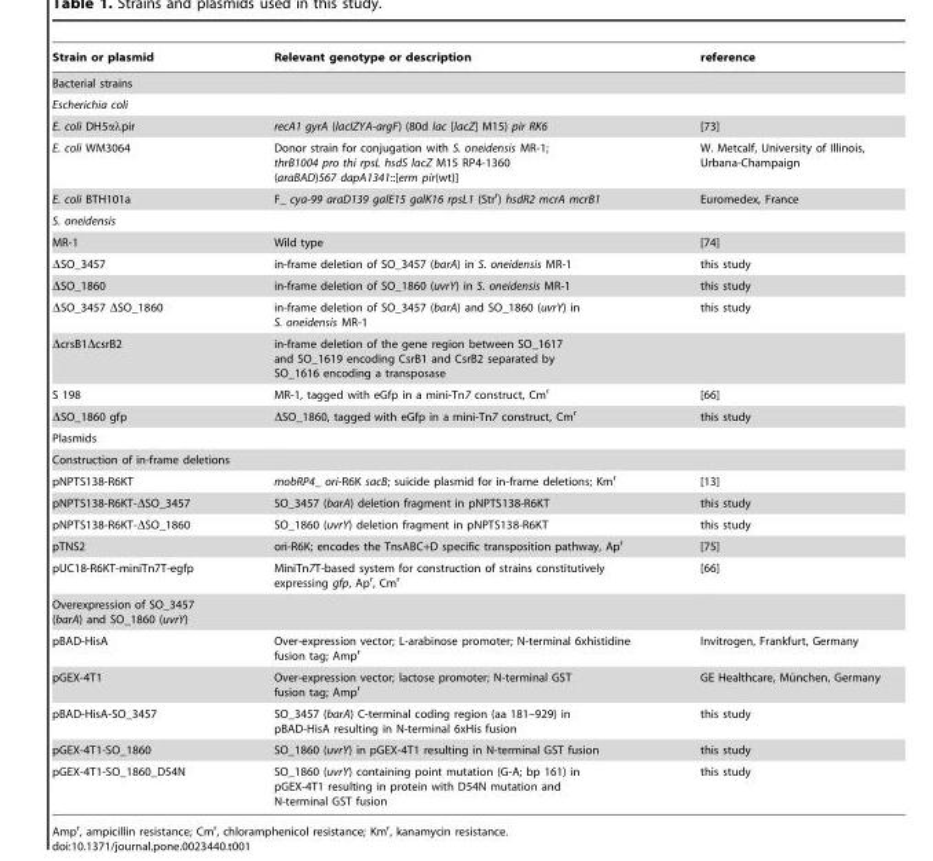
<table><thead><tr><td>Strain or plasmid</td><td>Relevant genotype or description</td><td>reference</td></tr></thead><tbody><tr><td colspan="3">Bacterial strains</td></tr><tr><td colspan="3">Escherichia coli</td></tr><tr><td>E. coli DH5αλpir</td><td>recA1 gyrA (lacIZYA-argF) (80d lac [lacZ] M15) pir RK6</td><td>[73]</td></tr><tr><td>E. coli WM3064</td><td>Donor strain for conjugation with S. oneidensis MR-1; thrB1004 pro thi rpsL hsdS lacZ M15 RP4-1360 (araBAD)567 dapA1341::[erm pir(wt)]</td><td>W. Metcalf, University of Illinois, Urbana-Champaign</td></tr><tr><td>E. coli BTH101a</td><td>F_ cya-99 araD139 galE15 galK16 rpsL1 (Str<sup>r</sup>) hsdR2 mcrA mcrB1</td><td>Euromedex, France</td></tr><tr><td colspan="3">S. oneidensis</td></tr><tr><td>MR-1</td><td>Wild type</td><td>[74]</td></tr><tr><td>ΔSO_3457</td><td>in-frame deletion of SO_3457 (barA) in S. oneidensis MR-1</td><td>this study</td></tr><tr><td>ΔSO_1860</td><td>in-frame deletion of SO_1860 (uvrY) in S. oneidensis MR-1</td><td>this study</td></tr><tr><td>ΔSO_3457 ΔSO_1860</td><td>in-frame deletion of SO_3457 (barA) and SO_1860 (uvrY) in S. oneidensis MR-1</td><td>this study</td></tr><tr><td>ΔcrsB1ΔcsrB2</td><td>in-frame deletion of the gene region between SO_1617 and SO_1619 encoding CsrB1 and CsrB2 separated by SO_1616 encoding a transposase</td><td></td></tr><tr><td>S 198</td><td>MR-1, tagged with eGfp in a mini-Tn7 construct, Cm<sup>r</sup></td><td>[66]</td></tr><tr><td>ΔSO_1860 gfp</td><td>ΔSO_1860, tagged with eGfp in a mini-Tn7 construct, Cm<sup>r</sup></td><td>this study</td></tr><tr><td colspan="3">Plasmids</td></tr><tr><td colspan="3">Construction of in-frame deletions</td></tr><tr><td>pNPTS138-R6KT</td><td>mobRP4_ ori-R6K sacB; suicide plasmid for in-frame deletions; Km<sup>r</sup></td><td>[13]</td></tr><tr><td>pNPTS138-R6KT-ΔSO_3457</td><td>SO_3457 (barA) deletion fragment in pNPTS138-R6KT</td><td>this study</td></tr><tr><td>pNPTS138-R6KT-ΔSO_1860</td><td>SO_1860 (uvrY) deletion fragment in pNPTS138-R6KT</td><td>this study</td></tr><tr><td>pTNS2</td><td>ori-R6K; encodes the TnsABC+D specific transposition pathway, Ap<sup>r</sup></td><td>[75]</td></tr><tr><td>pUC18-R6KT-miniTn7T-egfp</td><td>MiniTn7T-based system for construction of strains constitutively expressing gfp, Ap<sup>r</sup>, Cm<sup>r</sup></td><td>[66]</td></tr><tr><td colspan="3">Overexpression of SO_3457 (barA) and SO_1860 (uvrY)</td></tr><tr><td>pBAD-HisA</td><td>Over-expression vector; L-arabinose promoter; N-terminal 6xhistidine fusion tag; Amp<sup>r</sup></td><td>Invitrogen, Frankfurt, Germany</td></tr><tr><td>pGEX-4T1</td><td>Over-expression vector; lactose promoter; N-terminal GST fusion tag; Amp<sup>r</sup></td><td>GE Healthcare, Mu¨nchen, Germany</td></tr><tr><td>pBAD-HisA-SO_3457</td><td>SO_3457 (barA) C-terminal coding region (aa 181–929) in pBAD-HisA resulting in N-terminal 6xHis fusion</td><td>this study</td></tr><tr><td>pGEX-4T1-SO_1860</td><td>SO_1860 (uvrY) in pGEX-4T1 resulting in N-terminal GST fusion</td><td>this study</td></tr><tr><td>pGEX-4T1-SO_1860_D54N</td><td>SO_1860 (uvrY) containing point mutation (G-A; bp 161) in pGEX-4T1 resulting in protein with D54N mutation and N-terminal GST fusion</td><td>this study</td></tr></tbody></table>